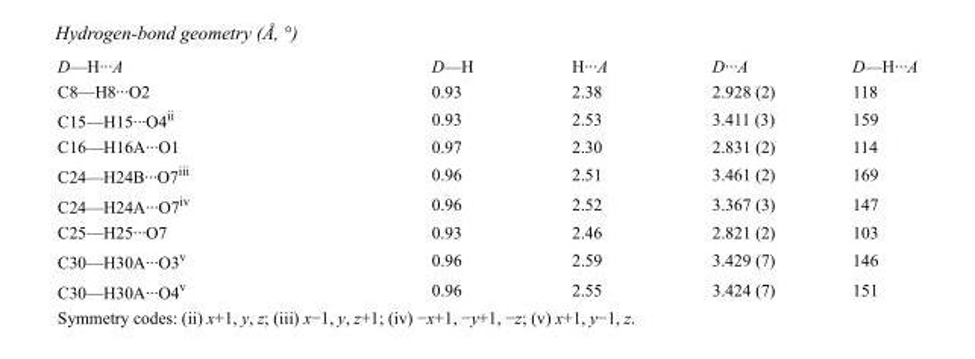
<table><tbody><tr><td>D—H···A</td><td>D—H</td><td>H···A</td><td>D···A</td><td>D—H···A</td></tr><tr><td>C8—H8···O2</td><td>0.93</td><td>2.38</td><td>2.928 (2)</td><td>118</td></tr><tr><td>C15—H15···O4<sup>ii</sup></td><td>0.93</td><td>2.53</td><td>3.411 (3)</td><td>159</td></tr><tr><td>C16—H16A···O1</td><td>0.97</td><td>2.30</td><td>2.831 (2)</td><td>114</td></tr><tr><td>C24—H24B···O7<sup>iii</sup></td><td>0.96</td><td>2.51</td><td>3.461 (2)</td><td>169</td></tr><tr><td>C24—H24A···O7<sup>iv</sup></td><td>0.96</td><td>2.52</td><td>3.367 (3)</td><td>147</td></tr><tr><td>C25—H25···O7</td><td>0.93</td><td>2.46</td><td>2.821 (2)</td><td>103</td></tr><tr><td>C30—H30A···O3<sup>v</sup></td><td>0.96</td><td>2.59</td><td>3.429 (7)</td><td>146</td></tr><tr><td>C30—H30A···O4<sup>v</sup></td><td>0.96</td><td>2.55</td><td>3.424 (7)</td><td>151</td></tr></tbody></table>